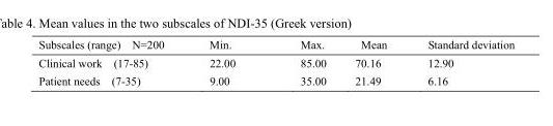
<table><thead><tr><td>Subscales (range) N=200</td><td>Min.</td><td>Max.</td><td>Mean</td><td>Standard deviation</td></tr></thead><tbody><tr><td>Clinical work (17-85)</td><td>22.00</td><td>85.00</td><td>70.16</td><td>12.90</td></tr><tr><td>Patient needs (7-35)</td><td>9.00</td><td>35.00</td><td>21.49</td><td>6.16</td></tr></tbody></table>